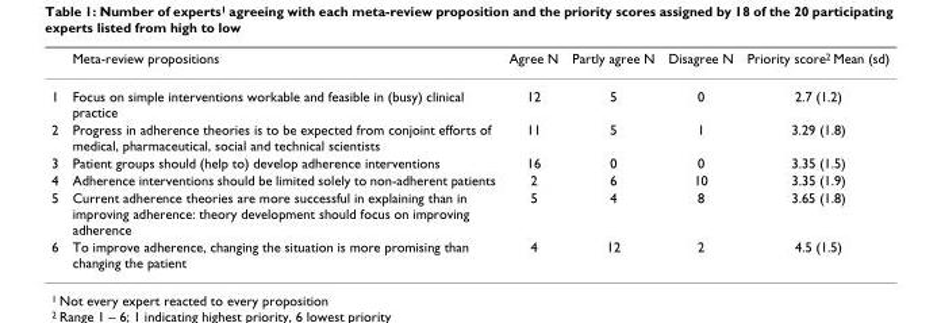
<table><thead><tr><td></td><td>Meta-review propositions</td><td>Agree N</td><td>Partly agree N</td><td>Disagree N</td><td>Priority score<sup>2</sup> Mean (sd)</td></tr></thead><tbody><tr><td>1</td><td>Focus on simple interventions workable and feasible in (busy) clinical practice</td><td>12</td><td>5</td><td>0</td><td>2.7 (1.2)</td></tr><tr><td>2</td><td>Progress in adherence theories is to be expected from conjoint efforts of medical, pharmaceutical, social and technical scientists</td><td>11</td><td>5</td><td>1</td><td>3.29 (1.8)</td></tr><tr><td>3</td><td>Patient groups should (help to) develop adherence interventions</td><td>16</td><td>0</td><td>0</td><td>3.35 (1.5)</td></tr><tr><td>4</td><td>Adherence interventions should be limited solely to non-adherent patients</td><td>2</td><td>6</td><td>10</td><td>3.35 (1.9)</td></tr><tr><td>5</td><td>Current adherence theories are more successful in explaining than in improving adherence: theory development should focus on improving adherence</td><td>5</td><td>4</td><td>8</td><td>3.65 (1.8)</td></tr><tr><td>6</td><td>To improve adherence, changing the situation is more promising than changing the patient</td><td>4</td><td>12</td><td>2</td><td>4.5 (1.5)</td></tr></tbody></table>